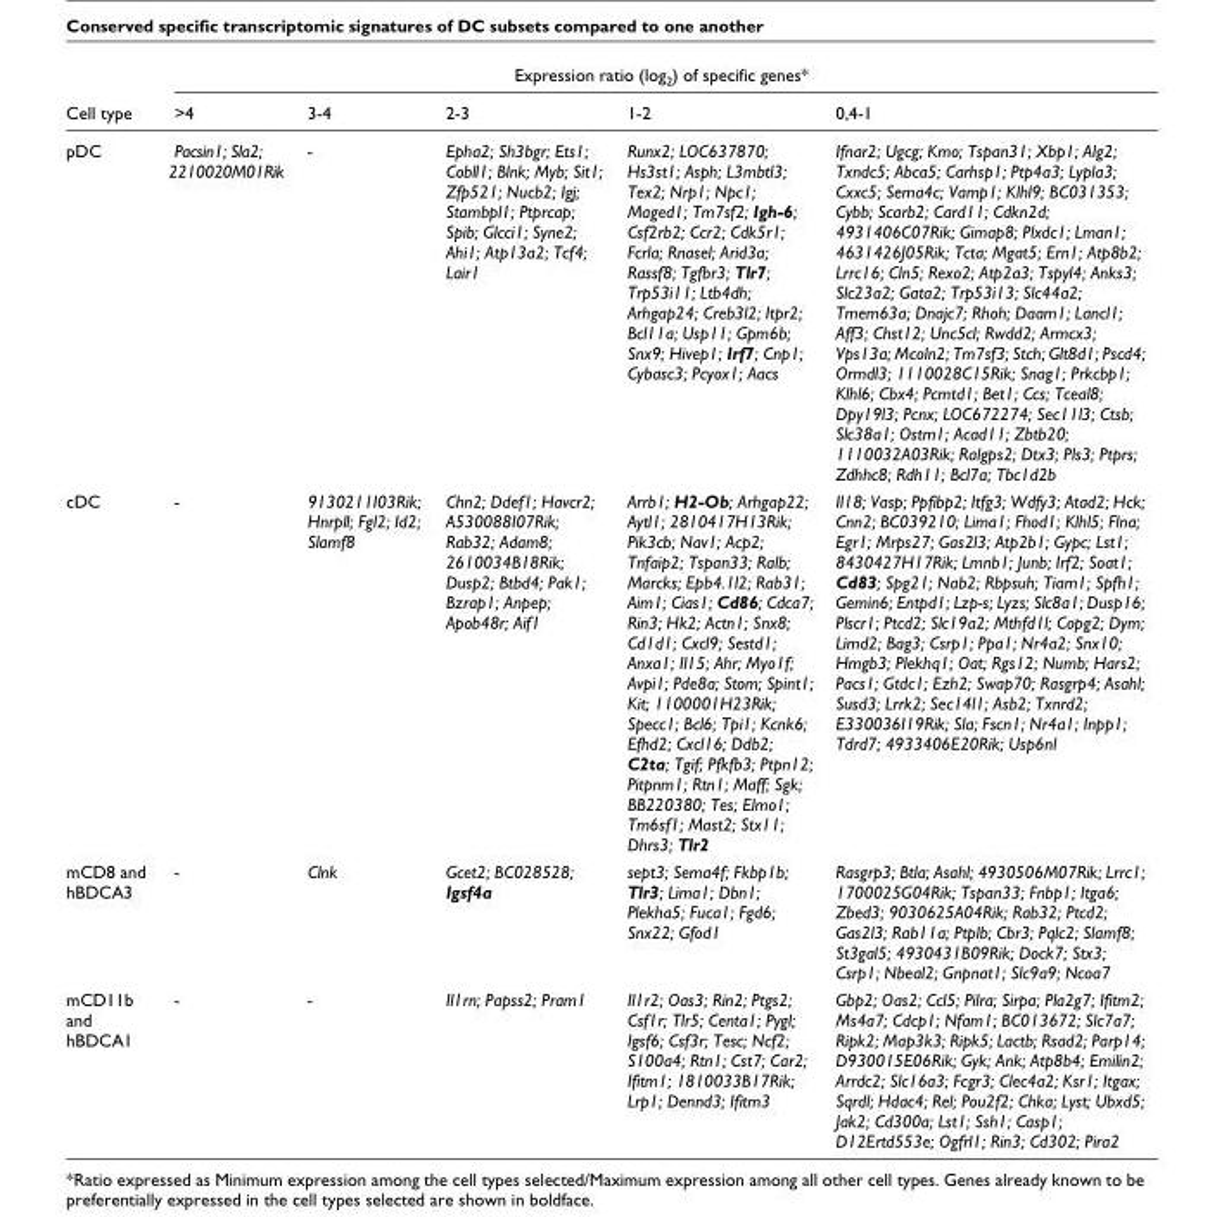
<table><thead><tr><td rowspan="2">Cell type</td><td colspan="5">Expression ratio (log<sub>2</sub>) of specific genes*</td></tr><tr><td>&gt;4</td><td>3-4</td><td>2-3</td><td>1-2</td><td>0,4-1</td></tr></thead><tbody><tr><td>pDC</td><td>Pacsin1; Sla2; 2210020M01Rik</td><td>-</td><td>Epha2; Sh3bgr; Ets1; Cobll1; Blnk; Myb; Sit1; Zfp521; Nucb2; Igj; Stambpl1; Ptprcap; Spib; Glcci1; Syne2; Ahi1; Atp13a2; Tcf4; Lair1</td><td>Runx2; LOC637870; Hs3st1; Asph; L3mbtl3; Tex2; Nrp1; Npc1; Maged1; Tm7sf2; Igh-6; Csf2rb2; Ccr2; Cdk5r1; Fcrla; Rnasel; Arid3a; Rassf8; Tgfbr3; Tlr7; Trp53i11; Ltb4dh; Arhgap24; Creb3l2; Itpr2; Bcl11a; Usp11; Gpm6b; Snx9; Hivep1; Irf7; Cnp1; Cybasc3; Pcyox1; Aacs</td><td>Ifnar2; Ugcg; Kmo; Tspan31; Xbp1; Alg2; Txndc5; Abca5; Carhsp1; Ptp4a3; Lypla3; Cxxc5; Sema4c; Vamp1; Klhl9; BC031353; Cybb; Scarb2; Card11; Cdkn2d; 4931406C07Rik; Gimap8; Plxdc1; Lman1; 4631426J05Rik; Tcta; Mgat5; Ern1; Atp8b2; Lrrc16; Cln5; Rexo2; Atp2a3; Tspyl4; Anks3; Slc23a2; Gata2; Trp53i13; Slc44a2; Tmem63a; Dnajc7; Rhoh; Daam1; Lancl1; Aff3; Chst12; Unc5cl; Rwdd2; Armcx3; Vps13a; Mcoln2; Tm7sf3; Stch; Glt8d1; Pscd4; Ormdl3; 1110028C15Rik; Snag1; Prkcbp1; Klhl6; Cbx4; Pcmtd1; Bet1; Ccs; Tceal8; Dpy19l3; Pcnx; LOC672274; Sec11l3; Ctsb; Slc38a1; Ostm1; Acad11; Zbtb20; 1110032A03Rik; Ralgps2; Dtx3; Pls3; Ptprs; Zdhhc8; Rdh11; Bcl7a; Tbc1d2b</td></tr><tr><td>cDC</td><td>-</td><td>9130211I03Rik; Hnrpll; Fgl2; Id2; Slamf8</td><td>Chn2; Ddef1; Havcr2; A530088I07Rik; Rab32; Adam8; 2610034B18Rik; Dusp2; Btbd4; Pak1; Bzrap1; Anpep; Apob48r; Aif1</td><td>Arrb1; H2-Ob; Arhgap22; Aytl1; 2810417H13Rik; Pik3cb; Nav1; Acp2; Tnfaip2; Tspan33; Ralb; Marcks; Epb4.1l2; Rab31; Aim1; Cias1; Cd86; Cdca7; Rin3; Hk2; Actn1; Snx8; Cd1d1; Cxcl9; Sestd1; Anxa1; Il15; Ahr; Myo1f; Avpi1; Pde8a; Stom; Spint1; Kit; 1100001H23Rik; Specc1; Bcl6; Tpi1; Kcnk6; Efhd2; Cxcl16; Ddb2; C2ta; Tgif; Pfkfb3; Ptpn12; Pitpnm1; Rtn1; Maff; Sgk; BB220380; Tes; Elmo1; Tm6sf1; Mast2; Stx11; Dhrs3; Tlr2</td><td>Il18; Vasp; Ppfibp2; Itfg3; Wdfy3; Atad2; Hck; Cnn2; BC039210; Lima1; Fhod1; Klhl5; Flna; Egr1; Mrps27; Gas2l3; Atp2b1; Gypc; Lst1; 8430427H17Rik; Lmnb1; Junb; Irf2; Soat1; Cd83; Spg21; Nab2; Rbpsuh; Tiam1; Spfh1; Gemin6; Entpd1; Lzp-s; Lyzs; Slc8a1; Dusp16; Plscr1; Ptcd2; Slc19a2; Mthfd1l; Copg2; Dym; Limd2; Bag3; Csrp1; Ppa1; Nr4a2; Snx10; Hmgb3; Plekhq1; Oat; Rgs12; Numb; Hars2; Pacs1; Gtdc1; Ezh2; Swap70; Rasgrp4; Asahl; Susd3; Lrrk2; Sec14l1; Asb2; Txnrd2; E330036I19Rik; Sla; Fscn1; Nr4a1; Inpp1; Tdrd7; 4933406E20Rik; Usp6nl</td></tr><tr><td>mCD8 and hBDCA3</td><td>-</td><td>Clnk</td><td>Gcet2; BC028528; Igsf4a</td><td>sept3; Sema4f; Fkbp1b; Tlr3; Lima1; Dbn1; Plekha5; Fuca1; Fgd6; Snx22; Gfod1</td><td>Rasgrp3; Btla; Asahl; 4930506M07Rik; Lrrc1; 1700025G04Rik; Tspan33; Fnbp1; Itga6; Zbed3; 9030625A04Rik; Rab32; Ptcd2; Gas2l3; Rab11a; Ptplb; Cbr3; Pqlc2; Slamf8; St3gal5; 4930431B09Rik; Dock7; Stx3; Csrp1; Nbeal2; Gnpnat1; Slc9a9; Ncoa7</td></tr><tr><td>mCD11b and hBDCA1</td><td>-</td><td>-</td><td>Il1rn; Papss2; Pram1</td><td>Il1r2; Oas3; Rin2; Ptgs2; Csf1r; Tlr5; Centa1; Pygl; Igsf6; Csf3r; Tesc; Ncf2; S100a4; Rtn1; Cst7; Car2; Ifitm1; 1810033B17Rik; Lrp1; Dennd3; Ifitm3</td><td>Gbp2; Oas2; Ccl5; Pilra; Sirpa; Pla2g7; Ifitm2; Ms4a7; Cdcp1; Nfam1; BC013672; Slc7a7; Ripk2; Map3k3; Ripk5; Lactb; Rsad2; Parp14; D930015E06Rik; Gyk; Ank; Atp8b4; Emilin2; Arrdc2; Slc16a3; Fcgr3; Clec4a2; Ksr1; Itgax; Sqrdl; Hdac4; Rel; Pou2f2; Chka; Lyst; Ubxd5; Jak2; Cd300a; Lst1; Ssh1; Casp1; D12Ertd553e; Ogfrl1; Rin3; Cd302; Pira2</td></tr></tbody></table>